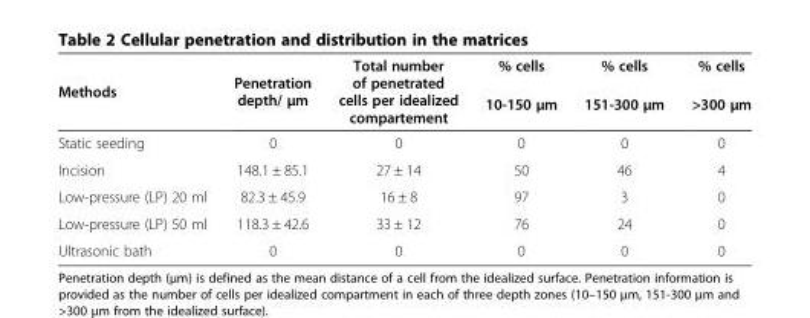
<table><thead><tr><td rowspan="2">Methods</td><td rowspan="2">Penetration depth/ μm</td><td rowspan="2">Total number of penetrated cells per idealized compartement</td><td rowspan="2">% cells 10-150 μm</td><td rowspan="2">% cells 151-300 μm</td><td rowspan="2">% cells &gt;300 μm</td></tr><tr></tr></thead><tbody><tr><td>Static seeding</td><td>0</td><td>0</td><td>0</td><td>0</td><td>0</td></tr><tr><td>Incision</td><td>148.1 ± 85.1</td><td>27 ± 14</td><td>50</td><td>46</td><td>4</td></tr><tr><td>Low-pressure (LP) 20 ml</td><td>82.3 ± 45.9</td><td>16 ± 8</td><td>97</td><td>3</td><td>0</td></tr><tr><td>Low-pressure (LP) 50 ml</td><td>118.3 ± 42.6</td><td>33 ± 12</td><td>76</td><td>24</td><td>0</td></tr><tr><td>Ultrasonic bath</td><td>0</td><td>0</td><td>0</td><td>0</td><td>0</td></tr></tbody></table>